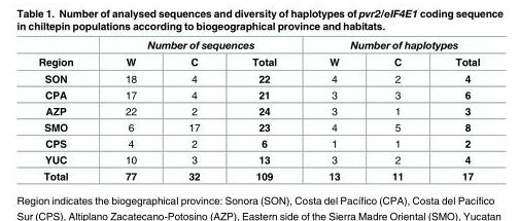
<table><thead><tr><td rowspan="2">Region</td><td colspan="3">Number of sequences</td><td colspan="3">Number of haplotypes</td></tr><tr><td>W</td><td>C</td><td>Total</td><td>W</td><td>C</td><td>Total</td></tr></thead><tbody><tr><td>SON</td><td>18</td><td>4</td><td>22</td><td>4</td><td>2</td><td>4</td></tr><tr><td>CPA</td><td>17</td><td>4</td><td>21</td><td>3</td><td>3</td><td>6</td></tr><tr><td>AZP</td><td>22</td><td>2</td><td>24</td><td>3</td><td>1</td><td>3</td></tr><tr><td>SMO</td><td>6</td><td>17</td><td>23</td><td>4</td><td>5</td><td>8</td></tr><tr><td>CPS</td><td>4</td><td>2</td><td>6</td><td>1</td><td>1</td><td>2</td></tr><tr><td>YUC</td><td>10</td><td>3</td><td>13</td><td>3</td><td>2</td><td>4</td></tr><tr><td>Total</td><td>77</td><td>32</td><td>109</td><td>13</td><td>11</td><td>17</td></tr></tbody></table>